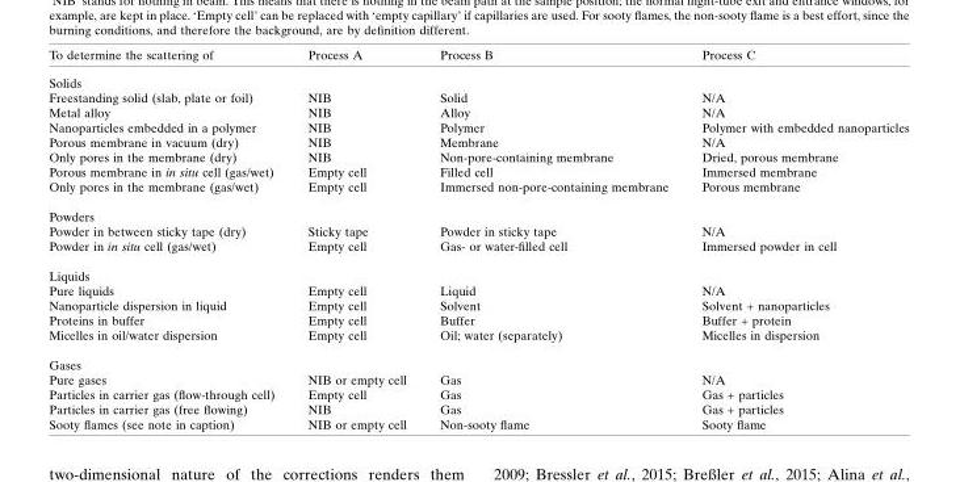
<table><thead><tr><td>To determine the scattering of</td><td>Process A</td><td>Process B</td><td>Process C</td></tr></thead><tbody><tr><td colspan="4">Solids</td></tr><tr><td>Freestanding solid (slab, plate or foil)</td><td>NIB</td><td>Solid</td><td>N/A</td></tr><tr><td>Metal alloy</td><td>NIB</td><td>Alloy</td><td>N/A</td></tr><tr><td>Nanoparticles embedded in a polymer</td><td>NIB</td><td>Polymer</td><td>Polymer with embedded nanoparticles</td></tr><tr><td>Porous membrane in vacuum (dry)</td><td>NIB</td><td>Membrane</td><td>N/A</td></tr><tr><td>Only pores in the membrane (dry)</td><td>NIB</td><td>Non-pore-containing membrane</td><td>Dried, porous membrane</td></tr><tr><td>Porous membrane in in situ cell (gas/wet)</td><td>Empty cell</td><td>Filled cell</td><td>Immersed membrane</td></tr><tr><td>Only pores in the membrane (gas/wet)</td><td>Empty cell</td><td>Immersed non-pore-containing membrane</td><td>Porous membrane</td></tr><tr><td colspan="4">Powders</td></tr><tr><td>Powder in between sticky tape (dry)</td><td>Sticky tape</td><td>Powder in sticky tape</td><td>N/A</td></tr><tr><td>Powder in in situ cell (gas/wet)</td><td>Empty cell</td><td>Gas- or water-filled cell</td><td>Immersed powder in cell</td></tr><tr><td colspan="4">Liquids</td></tr><tr><td>Pure liquids</td><td>Empty cell</td><td>Liquid</td><td>N/A</td></tr><tr><td>Nanoparticle dispersion in liquid</td><td>Empty cell</td><td>Solvent</td><td>Solvent + nanoparticles</td></tr><tr><td>Proteins in buffer</td><td>Empty cell</td><td>Buffer</td><td>Buffer + protein</td></tr><tr><td>Micelles in oil/water dispersion</td><td>Empty cell</td><td>Oil; water (separately)</td><td>Micelles in dispersion</td></tr><tr><td colspan="4">Gases</td></tr><tr><td>Pure gases</td><td>NIB or empty cell</td><td>Gas</td><td>N/A</td></tr><tr><td>Particles in carrier gas (flow-through cell)</td><td>Empty cell</td><td>Gas</td><td>Gas + particles</td></tr><tr><td>Particles in carrier gas (free flowing)</td><td>NIB</td><td>Gas</td><td>Gas + particles</td></tr><tr><td>Sooty flames (see note in caption)</td><td>NIB or empty cell</td><td>Non-sooty flame</td><td>Sooty flame</td></tr></tbody></table>